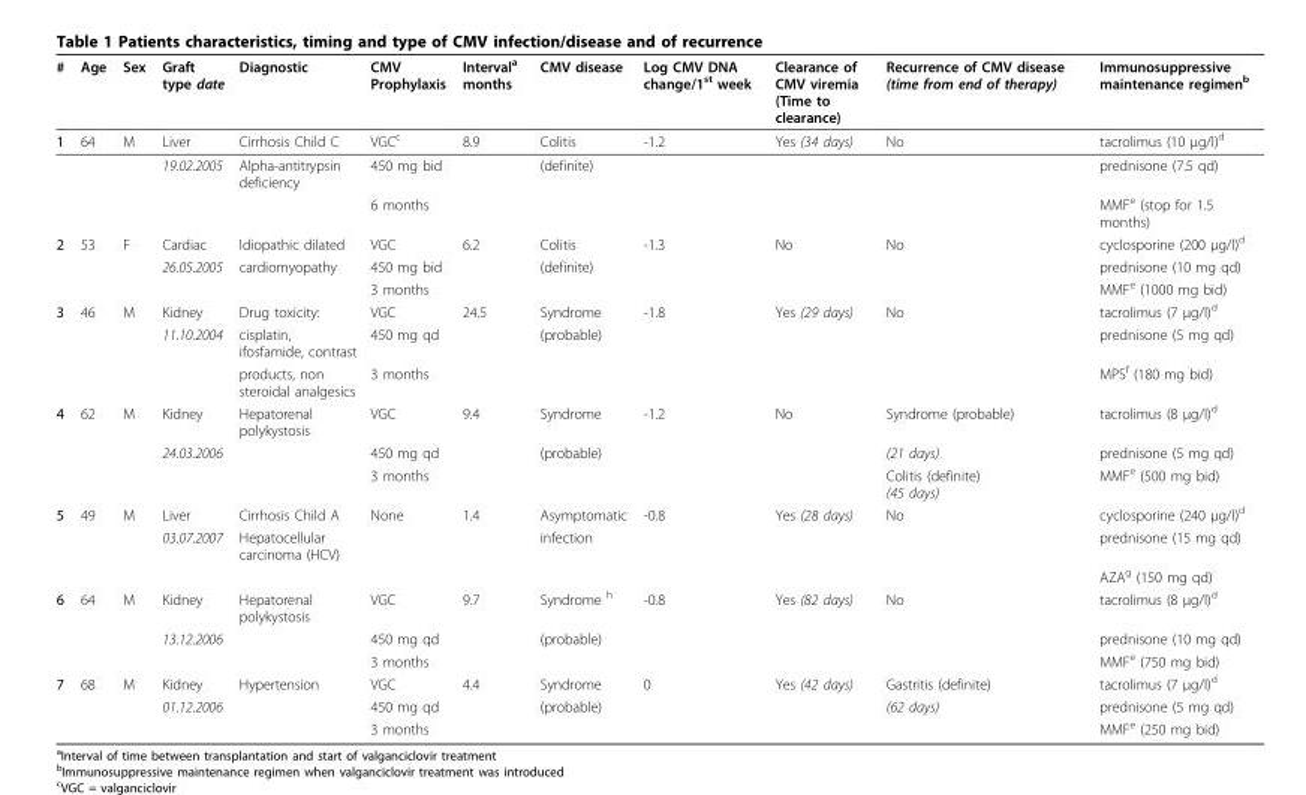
<table><thead><tr><td>#</td><td>Age</td><td>Sex</td><td>Graft type date</td><td>Diagnostic</td><td>CMV Prophylaxis</td><td>Interval<sup>a</sup> months</td><td>CMV disease</td><td>Log CMV DNA change/1<sup>st</sup> week</td><td>Clearance of CMV viremia (Time to clearance)</td><td>Recurrence of CMV disease (time from end of therapy)</td><td>Immunosuppressive maintenance regimen<sup>b</sup></td></tr></thead><tbody><tr><td rowspan="3">1</td><td>64</td><td>M</td><td>Liver</td><td>Cirrhosis Child C</td><td>VGC<sup>c</sup></td><td>8.9</td><td>Colitis</td><td>-1.2</td><td>Yes (34 days)</td><td>No</td><td>tacrolimus (10 μg/l)<sup>d</sup></td></tr><tr><td></td><td></td><td>19.02.2005</td><td>Alpha-antitrypsin deficiency</td><td>450 mg bid</td><td></td><td>(definite)</td><td></td><td></td><td></td><td>prednisone (7.5 qd)</td></tr><tr><td></td><td></td><td></td><td></td><td>6 months</td><td></td><td></td><td></td><td></td><td></td><td>MMF<sup>e</sup> (stop for 1.5 months)</td></tr><tr><td rowspan="3">2</td><td>53</td><td>F</td><td>Cardiac</td><td>Idiopathic dilated</td><td>VGC</td><td>6.2</td><td>Colitis</td><td>-1.3</td><td>No</td><td>No</td><td>cyclosporine (200 μg/l)<sup>d</sup></td></tr><tr><td></td><td></td><td>26.05.2005</td><td>cardiomyopathy</td><td>450 mg bid</td><td></td><td>(definite)</td><td></td><td></td><td></td><td>prednisone (10 mg qd)</td></tr><tr><td></td><td></td><td></td><td></td><td>3 months</td><td></td><td></td><td></td><td></td><td></td><td>MMF<sup>e</sup> (1000 mg bid)</td></tr><tr><td rowspan="3">3</td><td>46</td><td>M</td><td>Kidney</td><td>Drug toxicity:</td><td>VGC</td><td>24.5</td><td>Syndrome</td><td>-1.8</td><td>Yes (29 days)</td><td>No</td><td>tacrolimus (7 μg/l)<sup>d</sup></td></tr><tr><td></td><td></td><td>11.10.2004</td><td>cisplatin, ifosfamide, contrast</td><td>450 mg qd</td><td></td><td>(probable)</td><td></td><td></td><td></td><td>prednisone (5 mg qd)</td></tr><tr><td></td><td></td><td></td><td>products, non steroidal analgesics</td><td>3 months</td><td></td><td></td><td></td><td></td><td></td><td>MPS<sup>f</sup> (180 mg bid)</td></tr><tr><td rowspan="3">4</td><td>62</td><td>M</td><td>Kidney</td><td>Hepatorenal polykystosis</td><td>VGC</td><td>9.4</td><td>Syndrome</td><td>-1.2</td><td>No</td><td>Syndrome (probable)</td><td>tacrolimus (8 μg/l)<sup>d</sup></td></tr><tr><td></td><td></td><td>24.03.2006</td><td></td><td>450 mg qd</td><td></td><td>(probable)</td><td></td><td></td><td>(21 days)</td><td>prednisone (5 mg qd)</td></tr><tr><td></td><td></td><td></td><td></td><td>3 months</td><td></td><td></td><td></td><td></td><td>Colitis (definite) (45 days)</td><td>MMF<sup>e</sup> (500 mg bid)</td></tr><tr><td rowspan="3">5</td><td>49</td><td>M</td><td>Liver</td><td>Cirrhosis Child A</td><td>None</td><td>1.4</td><td>Asymptomatic</td><td>-0.8</td><td>Yes (28 days)</td><td>No</td><td>cyclosporine (240 μg/l)<sup>d</sup></td></tr><tr><td></td><td></td><td>03.07.2007</td><td>Hepatocellular carcinoma (HCV)</td><td></td><td></td><td>infection</td><td></td><td></td><td></td><td>prednisone (15 mg qd)</td></tr><tr><td></td><td></td><td></td><td></td><td></td><td></td><td></td><td></td><td></td><td></td><td>AZA<sup>g</sup> (150 mg qd)</td></tr><tr><td rowspan="3">6</td><td>64</td><td>M</td><td>Kidney</td><td>Hepatorenal polykystosis</td><td>VGC</td><td>9.7</td><td>Syndrome <sup>h</sup></td><td>-0.8</td><td>Yes (82 days)</td><td>No</td><td>tacrolimus (8 μg/l)<sup>d</sup></td></tr><tr><td></td><td></td><td>13.12.2006</td><td></td><td>450 mg qd</td><td></td><td>(probable)</td><td></td><td></td><td></td><td>prednisone (10 mg qd)</td></tr><tr><td></td><td></td><td></td><td></td><td>3 months</td><td></td><td></td><td></td><td></td><td></td><td>MMF<sup>e</sup> (750 mg bid)</td></tr><tr><td rowspan="3">7</td><td>68</td><td>M</td><td>Kidney</td><td>Hypertension</td><td>VGC</td><td>4.4</td><td>Syndrome</td><td>0</td><td>Yes (42 days)</td><td>Gastritis (definite)</td><td>tacrolimus (7 μg/l)<sup>d</sup></td></tr><tr><td></td><td></td><td>01.12.2006</td><td></td><td>450 mg qd</td><td></td><td>(probable)</td><td></td><td></td><td>(62 days)</td><td>prednisone (5 mg qd)</td></tr><tr><td></td><td></td><td></td><td></td><td>3 months</td><td></td><td></td><td></td><td></td><td></td><td>MMF<sup>e</sup> (250 mg bid)</td></tr></tbody></table>